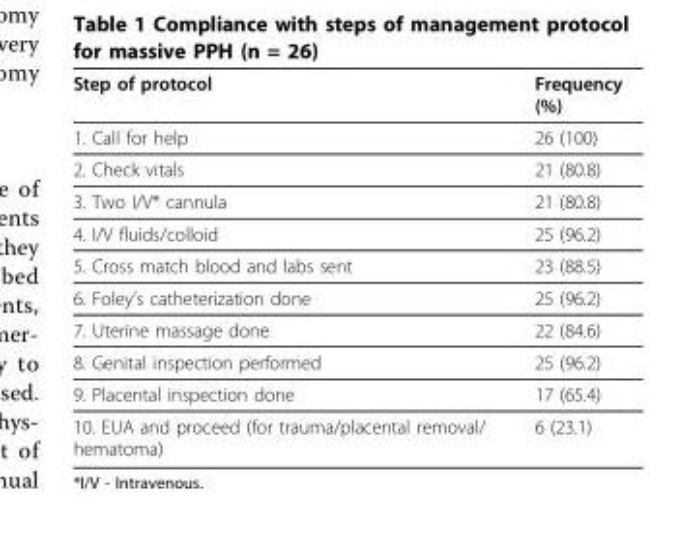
<table><thead><tr><td>Step of protocol</td><td>Frequency (%)</td></tr></thead><tbody><tr><td>1. Call for help</td><td>26 (100)</td></tr><tr><td>2. Check vitals</td><td>21 (80.8)</td></tr><tr><td>3. Two I/V* cannula</td><td>21 (80.8)</td></tr><tr><td>4. I/V fluids/colloid</td><td>25 (96.2)</td></tr><tr><td>5. Cross match blood and labs sent</td><td>23 (88.5)</td></tr><tr><td>6. Foley’s catheterization done</td><td>25 (96.2)</td></tr><tr><td>7. Uterine massage done</td><td>22 (84.6)</td></tr><tr><td>8. Genital inspection performed</td><td>25 (96.2)</td></tr><tr><td>9. Placental inspection done</td><td>17 (65.4)</td></tr><tr><td>10. EUA and proceed (for trauma/placental removal/ hematoma)</td><td>6 (23.1)</td></tr></tbody></table>